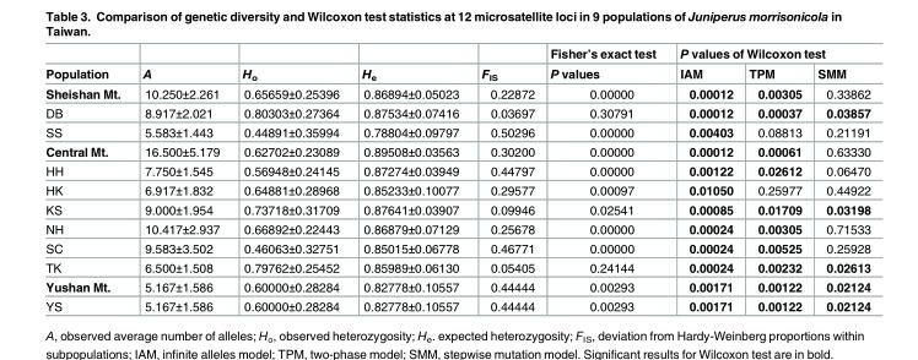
<table><thead><tr><td rowspan="2">Population</td><td rowspan="2">A</td><td rowspan="2">H<sub>o</sub></td><td rowspan="2">H<sub>e</sub></td><td rowspan="2">F<sub>IS</sub></td><td rowspan="2">Fisher’s exact test P values</td><td colspan="3">P values of Wilcoxon test</td></tr><tr><td>IAM</td><td>TPM</td><td>SMM</td></tr></thead><tbody><tr><td>Sheishan Mt.</td><td>10.250±2.261</td><td>0.65659±0.25396</td><td>0.86894±0.05023</td><td>0.22872</td><td>0.00000</td><td>0.00012</td><td>0.00305</td><td>0.33862</td></tr><tr><td>DB</td><td>8.917±2.021</td><td>0.80303±0.27364</td><td>0.87534±0.07416</td><td>0.03697</td><td>0.30791</td><td>0.00012</td><td>0.00037</td><td>0.03857</td></tr><tr><td>SS</td><td>5.583±1.443</td><td>0.44891±0.35994</td><td>0.78804±0.09797</td><td>0.50296</td><td>0.00000</td><td>0.00403</td><td>0.08813</td><td>0.21191</td></tr><tr><td>Central Mt.</td><td>16.500±5.179</td><td>0.62702±0.23089</td><td>0.89508±0.03563</td><td>0.30200</td><td>0.00000</td><td>0.00012</td><td>0.00061</td><td>0.63330</td></tr><tr><td>HH</td><td>7.750±1.545</td><td>0.56948±0.24145</td><td>0.87274±0.03949</td><td>0.44797</td><td>0.00000</td><td>0.00122</td><td>0.02612</td><td>0.06470</td></tr><tr><td>HK</td><td>6.917±1.832</td><td>0.64881±0.28968</td><td>0.85233±0.10077</td><td>0.29577</td><td>0.00097</td><td>0.01050</td><td>0.25977</td><td>0.44922</td></tr><tr><td>KS</td><td>9.000±1.954</td><td>0.73718±0.31709</td><td>0.87641±0.03907</td><td>0.09946</td><td>0.02541</td><td>0.00085</td><td>0.01709</td><td>0.03198</td></tr><tr><td>NH</td><td>10.417±2.937</td><td>0.66892±0.22443</td><td>0.86879±0.07129</td><td>0.25678</td><td>0.00000</td><td>0.00024</td><td>0.00305</td><td>0.71533</td></tr><tr><td>SC</td><td>9.583±3.502</td><td>0.46063±0.32751</td><td>0.85015±0.06778</td><td>0.46771</td><td>0.00000</td><td>0.00024</td><td>0.00525</td><td>0.25928</td></tr><tr><td>TK</td><td>6.500±1.508</td><td>0.79762±0.25452</td><td>0.85989±0.06130</td><td>0.05405</td><td>0.24144</td><td>0.00024</td><td>0.00232</td><td>0.02613</td></tr><tr><td>Yushan Mt.</td><td>5.167±1.586</td><td>0.60000±0.28284</td><td>0.82778±0.10557</td><td>0.44444</td><td>0.00293</td><td>0.00171</td><td>0.00122</td><td>0.02124</td></tr><tr><td>YS</td><td>5.167±1.586</td><td>0.60000±0.28284</td><td>0.82778±0.10557</td><td>0.44444</td><td>0.00293</td><td>0.00171</td><td>0.00122</td><td>0.02124</td></tr></tbody></table>